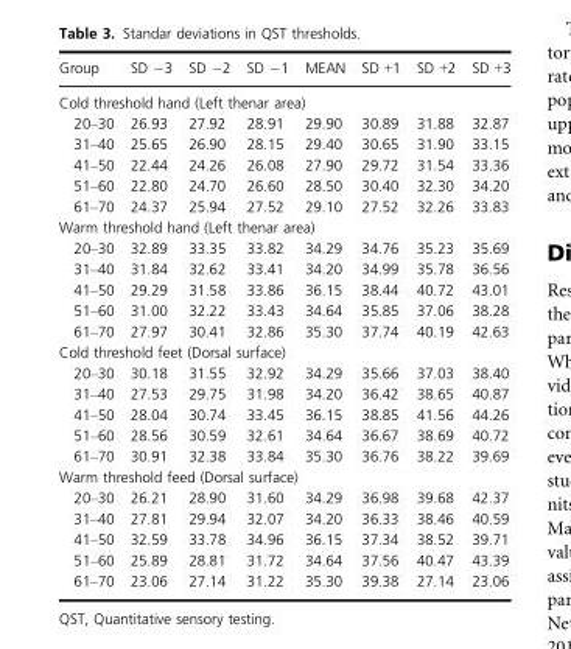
<table><thead><tr><td>Group</td><td>SD −3</td><td>SD −2</td><td>SD −1</td><td>MEAN</td><td>SD +1</td><td>SD +2</td><td>SD +3</td></tr></thead><tbody><tr><td colspan="8">Cold threshold hand (Left thenar area)</td></tr><tr><td>20–30</td><td>26.93</td><td>27.92</td><td>28.91</td><td>29.90</td><td>30.89</td><td>31.88</td><td>32.87</td></tr><tr><td>31–40</td><td>25.65</td><td>26.90</td><td>28.15</td><td>29.40</td><td>30.65</td><td>31.90</td><td>33.15</td></tr><tr><td>41–50</td><td>22.44</td><td>24.26</td><td>26.08</td><td>27.90</td><td>29.72</td><td>31.54</td><td>33.36</td></tr><tr><td>51–60</td><td>22.80</td><td>24.70</td><td>26.60</td><td>28.50</td><td>30.40</td><td>32.30</td><td>34.20</td></tr><tr><td>61–70</td><td>24.37</td><td>25.94</td><td>27.52</td><td>29.10</td><td>27.52</td><td>32.26</td><td>33.83</td></tr><tr><td colspan="8">Warm threshold hand (Left thenar area)</td></tr><tr><td>20–30</td><td>32.89</td><td>33.35</td><td>33.82</td><td>34.29</td><td>34.76</td><td>35.23</td><td>35.69</td></tr><tr><td>31–40</td><td>31.84</td><td>32.62</td><td>33.41</td><td>34.20</td><td>34.99</td><td>35.78</td><td>36.56</td></tr><tr><td>41–50</td><td>29.29</td><td>31.58</td><td>33.86</td><td>36.15</td><td>38.44</td><td>40.72</td><td>43.01</td></tr><tr><td>51–60</td><td>31.00</td><td>32.22</td><td>33.43</td><td>34.64</td><td>35.85</td><td>37.06</td><td>38.28</td></tr><tr><td>61–70</td><td>27.97</td><td>30.41</td><td>32.86</td><td>35.30</td><td>37.74</td><td>40.19</td><td>42.63</td></tr><tr><td colspan="8">Cold threshold feet (Dorsal surface)</td></tr><tr><td>20–30</td><td>30.18</td><td>31.55</td><td>32.92</td><td>34.29</td><td>35.66</td><td>37.03</td><td>38.40</td></tr><tr><td>31–40</td><td>27.53</td><td>29.75</td><td>31.98</td><td>34.20</td><td>36.42</td><td>38.65</td><td>40.87</td></tr><tr><td>41–50</td><td>28.04</td><td>30.74</td><td>33.45</td><td>36.15</td><td>38.85</td><td>41.56</td><td>44.26</td></tr><tr><td>51–60</td><td>28.56</td><td>30.59</td><td>32.61</td><td>34.64</td><td>36.67</td><td>38.69</td><td>40.72</td></tr><tr><td>61–70</td><td>30.91</td><td>32.38</td><td>33.84</td><td>35.30</td><td>36.76</td><td>38.22</td><td>39.69</td></tr><tr><td colspan="8">Warm threshold feed (Dorsal surface)</td></tr><tr><td>20–30</td><td>26.21</td><td>28.90</td><td>31.60</td><td>34.29</td><td>36.98</td><td>39.68</td><td>42.37</td></tr><tr><td>31–40</td><td>27.81</td><td>29.94</td><td>32.07</td><td>34.20</td><td>36.33</td><td>38.46</td><td>40.59</td></tr><tr><td>41–50</td><td>32.59</td><td>33.78</td><td>34.96</td><td>36.15</td><td>37.34</td><td>38.52</td><td>39.71</td></tr><tr><td>51–60</td><td>25.89</td><td>28.81</td><td>31.72</td><td>34.64</td><td>37.56</td><td>40.47</td><td>43.39</td></tr><tr><td>61–70</td><td>23.06</td><td>27.14</td><td>31.22</td><td>35.30</td><td>39.38</td><td>27.14</td><td>23.06</td></tr></tbody></table>